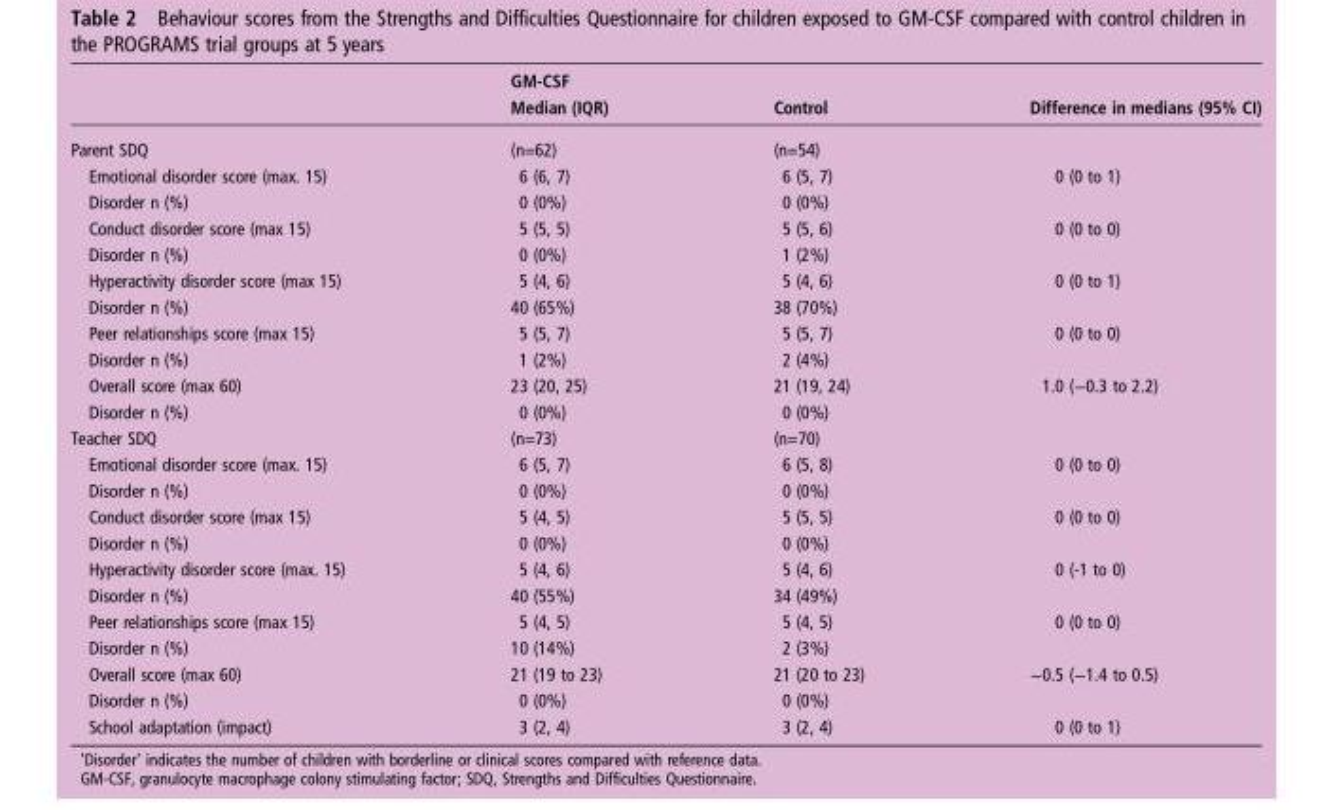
<table><thead><tr><td rowspan="2"></td><td rowspan="2">GM-CSF Median (IQR)</td><td rowspan="2">Control</td><td rowspan="2">Difference in medians (95% CI)</td></tr><tr></tr></thead><tbody><tr><td>Parent SDQ</td><td>(n=62)</td><td>(n=54)</td><td></td></tr><tr><td>Emotional disorder score (max. 15)</td><td>6 (6, 7)</td><td>6 (5, 7)</td><td>0 (0 to 1)</td></tr><tr><td>Disorder n (%)</td><td>0 (0%)</td><td>0 (0%)</td><td></td></tr><tr><td>Conduct disorder score (max 15)</td><td>5 (5, 5)</td><td>5 (5, 6)</td><td>0 (0 to 0)</td></tr><tr><td>Disorder n (%)</td><td>0 (0%)</td><td>1 (2%)</td><td></td></tr><tr><td>Hyperactivity disorder score (max 15)</td><td>5 (4, 6)</td><td>5 (4, 6)</td><td>0 (0 to 1)</td></tr><tr><td>Disorder n (%)</td><td>40 (65%)</td><td>38 (70%)</td><td></td></tr><tr><td>Peer relationships score (max 15)</td><td>5 (5, 7)</td><td>5 (5, 7)</td><td>0 (0 to 0)</td></tr><tr><td>Disorder n (%)</td><td>1 (2%)</td><td>2 (4%)</td><td></td></tr><tr><td>Overall score (max 60)</td><td>23 (20, 25)</td><td>21 (19, 24)</td><td>1.0 (−0.3 to 2.2)</td></tr><tr><td>Disorder n (%)</td><td>0 (0%)</td><td>0 (0%)</td><td></td></tr><tr><td>Teacher SDQ</td><td>(n=73)</td><td>(n=70)</td><td></td></tr><tr><td>Emotional disorder score (max. 15)</td><td>6 (5, 7)</td><td>6 (5, 8)</td><td>0 (0 to 0)</td></tr><tr><td>Disorder n (%)</td><td>0 (0%)</td><td>0 (0%)</td><td></td></tr><tr><td>Conduct disorder score (max 15)</td><td>5 (4, 5)</td><td>5 (5, 5)</td><td>0 (0 to 0)</td></tr><tr><td>Disorder n (%)</td><td>0 (0%)</td><td>0 (0%)</td><td></td></tr><tr><td>Hyperactivity disorder score (max. 15)</td><td>5 (4, 6)</td><td>5 (4, 6)</td><td>0 (-1 to 0)</td></tr><tr><td>Disorder n (%)</td><td>40 (55%)</td><td>34 (49%)</td><td></td></tr><tr><td>Peer relationships score (max 15)</td><td>5 (4, 5)</td><td>5 (4, 5)</td><td>0 (0 to 0)</td></tr><tr><td>Disorder n (%)</td><td>10 (14%)</td><td>2 (3%)</td><td></td></tr><tr><td>Overall score (max 60)</td><td>21 (19 to 23)</td><td>21 (20 to 23)</td><td>−0.5 (−1.4 to 0.5)</td></tr><tr><td>Disorder n (%)</td><td>0 (0%)</td><td>0 (0%)</td><td></td></tr><tr><td>School adaptation (impact)</td><td>3 (2, 4)</td><td>3 (2, 4)</td><td>0 (0 to 1)</td></tr></tbody></table>